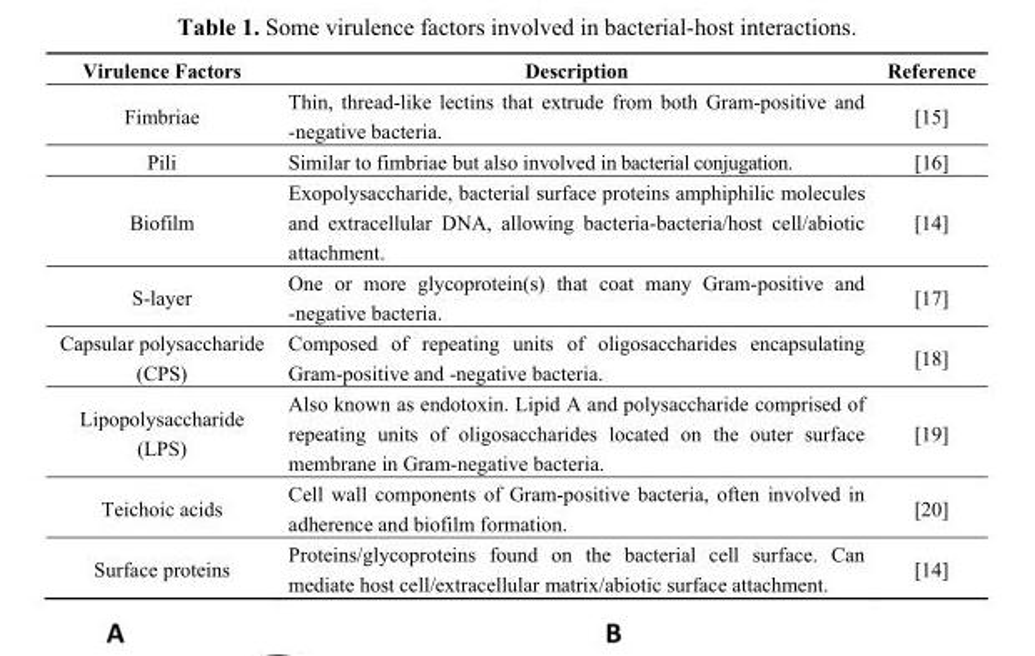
<table><thead><tr><td>Virulence Factors</td><td>Description</td><td>Reference</td></tr></thead><tbody><tr><td>Fimbriae</td><td>Thin, thread-like lectins that extrude from both Gram-positive and -negative bacteria.</td><td>[15]</td></tr><tr><td>Pili</td><td>Similar to fimbriae but also involved in bacterial conjugation.</td><td>[16]</td></tr><tr><td>Biofilm</td><td>Exopolysaccharide, bacterial surface proteins amphiphilic molecules and extracellular DNA, allowing bacteria-bacteria/host cell/abiotic attachment.</td><td>[14]</td></tr><tr><td>S-layer</td><td>One or more glycoprotein(s) that coat many Gram-positive and -negative bacteria.</td><td>[17]</td></tr><tr><td>Capsular polysaccharide (CPS)</td><td>Composed of repeating units of oligosaccharides encapsulating Gram-positive and -negative bacteria.</td><td>[18]</td></tr><tr><td>Lipopolysaccharide (LPS)</td><td>Also known as endotoxin. Lipid A and polysaccharide comprised of repeating units of oligosaccharides located on the outer surface membrane in Gram-negative bacteria.</td><td>[19]</td></tr><tr><td>Teichoic acids</td><td>Cell wall components of Gram-positive bacteria, often involved in adherence and biofilm formation.</td><td>[20]</td></tr><tr><td>Surface proteins</td><td>Proteins/glycoproteins found on the bacterial cell surface. Can mediate host cell/extracellular matrix/abiotic surface attachment.</td><td>[14]</td></tr></tbody></table>